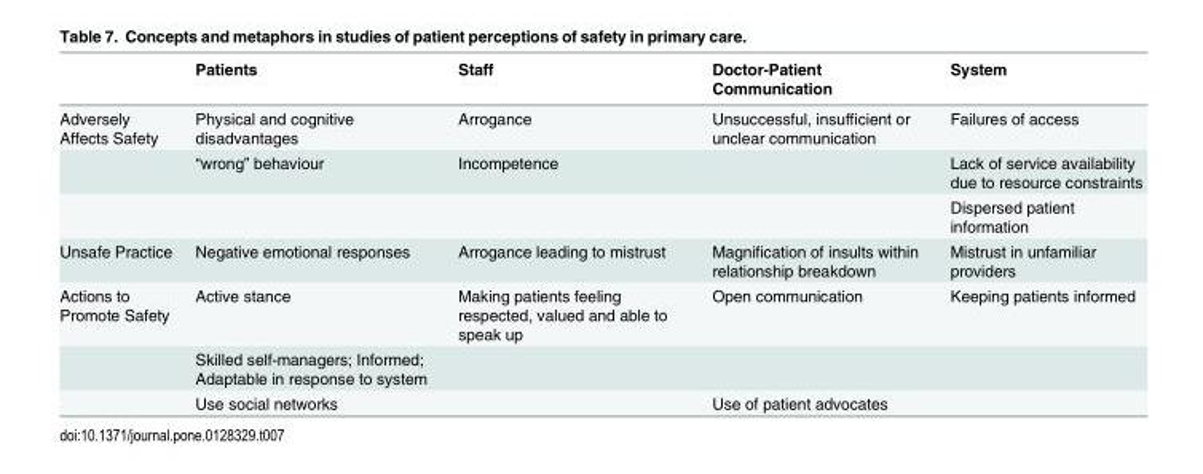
<table><thead><tr><td></td><td>Patients</td><td>Staff</td><td>Doctor-Patient Communication</td><td>System</td></tr></thead><tbody><tr><td rowspan="3">Adversely Affects Safety</td><td>Physical and cognitive disadvantages</td><td>Arrogance</td><td>Unsuccessful, insufficient or unclear communication</td><td>Failures of access</td></tr><tr><td>“wrong” behaviour</td><td>Incompetence</td><td></td><td>Lack of service availability due to resource constraints</td></tr><tr><td></td><td></td><td></td><td>Dispersed patient information</td></tr><tr><td>Unsafe Practice</td><td>Negative emotional responses</td><td>Arrogance leading to mistrust</td><td>Magnification of insults within relationship breakdown</td><td>Mistrust in unfamiliar providers</td></tr><tr><td rowspan="3">Actions to Promote Safety</td><td>Active stance</td><td>Making patients feeling respected, valued and able to speak up</td><td>Open communication</td><td>Keeping patients informed</td></tr><tr><td>Skilled self-managers; Informed; Adaptable in response to system</td><td></td><td></td><td></td></tr><tr><td>Use social networks</td><td></td><td>Use of patient advocates</td><td></td></tr></tbody></table>